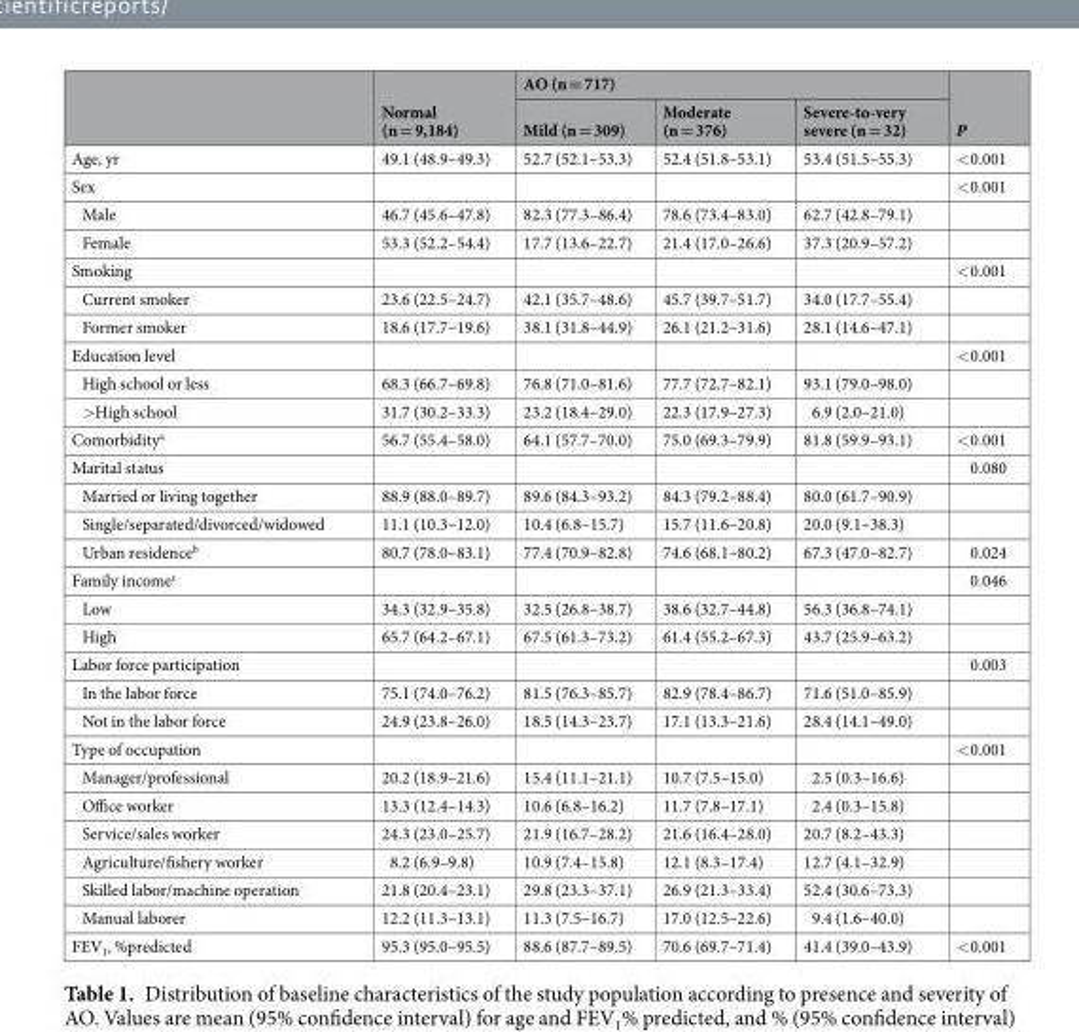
<table><thead><tr><td rowspan="2"></td><td rowspan="2">Normal (n = 9,184)</td><td colspan="3">AO (n = 717)</td><td rowspan="2">P</td></tr><tr><td>Mild (n = 309)</td><td>Moderate (n = 376)</td><td>Severe-to-very severe (n = 32)</td></tr></thead><tbody><tr><td>Age, yr</td><td>49.1 (48.9–49.3)</td><td>52.7 (52.1–53.3)</td><td>52.4 (51.8–53.1)</td><td>53.4 (51.5–55.3)</td><td>&lt;0.001</td></tr><tr><td>Sex</td><td></td><td></td><td></td><td></td><td>&lt;0.001</td></tr><tr><td>Male</td><td>46.7 (45.6–47.8)</td><td>82.3 (77.3–86.4)</td><td>78.6 (73.4–83.0)</td><td>62.7 (42.8–79.1)</td><td></td></tr><tr><td>Female</td><td>53.3 (52.2–54.4)</td><td>17.7 (13.6–22.7)</td><td>21.4 (17.0–26.6)</td><td>37.3 (20.9–57.2)</td><td></td></tr><tr><td>Smoking</td><td></td><td></td><td></td><td></td><td>&lt;0.001</td></tr><tr><td>Current smoker</td><td>23.6 (22.5–24.7)</td><td>42.1 (35.7–48.6)</td><td>45.7 (39.7–51.7)</td><td>34.0 (17.7–55.4)</td><td></td></tr><tr><td>Former smoker</td><td>18.6 (17.7–19.6)</td><td>38.1 (31.8–44.9)</td><td>26.1 (21.2–31.6)</td><td>28.1 (14.6–47.1)</td><td></td></tr><tr><td>Education level</td><td></td><td></td><td></td><td></td><td>&lt;0.001</td></tr><tr><td>High school or less</td><td>68.3 (66.7–69.8)</td><td>76.8 (71.0–81.6)</td><td>77.7 (72.7–82.1)</td><td>93.1 (79.0–98.0)</td><td></td></tr><tr><td>&gt;High school</td><td>31.7 (30.2–33.3)</td><td>23.2 (18.4–29.0)</td><td>22.3 (17.9–27.3)</td><td>6.9 (2.0–21.0)</td><td></td></tr><tr><td>Comorbidity<sup>a</sup></td><td>56.7 (55.4–58.0)</td><td>64.1 (57.7–70.0)</td><td>75.0 (69.3–79.9)</td><td>81.8 (59.9–93.1)</td><td>&lt;0.001</td></tr><tr><td>Marital status</td><td></td><td></td><td></td><td></td><td>0.080</td></tr><tr><td>Married or living together</td><td>88.9 (88.0–89.7)</td><td>89.6 (84.3–93.2)</td><td>84.3 (79.2–88.4)</td><td>80.0 (61.7–90.9)</td><td></td></tr><tr><td>Single/separated/divorced/widowed</td><td>11.1 (10.3–12.0)</td><td>10.4 (6.8–15.7)</td><td>15.7 (11.6–20.8)</td><td>20.0 (9.1–38.3)</td><td></td></tr><tr><td>Urban residence<sup>b</sup></td><td>80.7 (78.0–83.1)</td><td>77.4 (70.9–82.8)</td><td>74.6 (68.1–80.2)</td><td>67.3 (47.0–82.7)</td><td>0.024</td></tr><tr><td>Family income<sup>c</sup></td><td></td><td></td><td></td><td></td><td>0.046</td></tr><tr><td>Low</td><td>34.3 (32.9–35.8)</td><td>32.5 (26.8–38.7)</td><td>38.6 (32.7–44.8)</td><td>56.3 (36.8–74.1)</td><td></td></tr><tr><td>High</td><td>65.7 (64.2–67.1)</td><td>67.5 (61.3–73.2)</td><td>61.4 (55.2–67.3)</td><td>43.7 (25.9–63.2)</td><td></td></tr><tr><td>Labor force participation</td><td></td><td></td><td></td><td></td><td>0.003</td></tr><tr><td>In the labor force</td><td>75.1 (74.0–76.2)</td><td>81.5 (76.3–85.7)</td><td>82.9 (78.4–86.7)</td><td>71.6 (51.0–85.9)</td><td></td></tr><tr><td>Not in the labor force</td><td>24.9 (23.8–26.0)</td><td>18.5 (14.3–23.7)</td><td>17.1 (13.3–21.6)</td><td>28.4 (14.1–49.0)</td><td></td></tr><tr><td>Type of occupation</td><td></td><td></td><td></td><td></td><td>&lt;0.001</td></tr><tr><td>Manager/professional</td><td>20.2 (18.9–21.6)</td><td>15.4 (11.1–21.1)</td><td>10.7 (7.5–15.0)</td><td>2.5 (0.3–16.6)</td><td></td></tr><tr><td>Office worker</td><td>13.3 (12.4–14.3)</td><td>10.6 (6.8–16.2)</td><td>11.7 (7.8–17.1)</td><td>2.4 (0.3–15.8)</td><td></td></tr><tr><td>Service/sales worker</td><td>24.3 (23.0–25.7)</td><td>21.9 (16.7–28.2)</td><td>21.6 (16.4–28.0)</td><td>20.7 (8.2–43.3)</td><td></td></tr><tr><td>Agriculture/fishery worker</td><td>8.2 (6.9–9.8)</td><td>10.9 (7.4–15.8)</td><td>12.1 (8.3–17.4)</td><td>12.7 (4.1–32.9)</td><td></td></tr><tr><td>Skilled labor/machine operation</td><td>21.8 (20.4–23.1)</td><td>29.8 (23.3–37.1)</td><td>26.9 (21.3–33.4)</td><td>52.4 (30.6–73.3)</td><td></td></tr><tr><td>Manual laborer</td><td>12.2 (11.3–13.1)</td><td>11.3 (7.5–16.7)</td><td>17.0 (12.5–22.6)</td><td>9.4 (1.6–40.0)</td><td></td></tr><tr><td>FEV<sub>1</sub>, %predicted</td><td>95.3 (95.0–95.5)</td><td>88.6 (87.7–89.5)</td><td>70.6 (69.7–71.4)</td><td>41.4 (39.0–43.9)</td><td>&lt;0.001</td></tr></tbody></table>